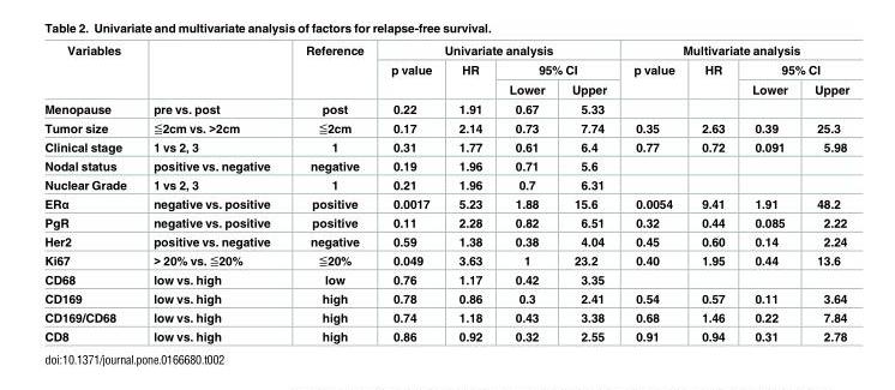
<table><thead><tr><td rowspan="3">Variables</td><td rowspan="3"></td><td rowspan="3">Reference</td><td colspan="4">Univariate analysis</td><td colspan="4">Multivariate analysis</td></tr><tr><td rowspan="2">p value</td><td rowspan="2">HR</td><td colspan="2">95% CI</td><td rowspan="2">p value</td><td rowspan="2">HR</td><td colspan="2">95% CI</td></tr><tr><td>Lower</td><td>Upper</td><td>Lower</td><td>Upper</td></tr></thead><tbody><tr><td>Menopause</td><td>pre vs. post</td><td>post</td><td>0.22</td><td>1.91</td><td>0.67</td><td>5.33</td><td></td><td></td><td></td><td></td></tr><tr><td>Tumor size</td><td>≦2cm vs. &gt;2cm</td><td>≦2cm</td><td>0.17</td><td>2.14</td><td>0.73</td><td>7.74</td><td>0.35</td><td>2.63</td><td>0.39</td><td>25.3</td></tr><tr><td>Clinical stage</td><td>1 vs 2, 3</td><td>1</td><td>0.31</td><td>1.77</td><td>0.61</td><td>6.4</td><td>0.77</td><td>0.72</td><td>0.091</td><td>5.98</td></tr><tr><td>Nodal status</td><td>positive vs. negative</td><td>negative</td><td>0.19</td><td>1.96</td><td>0.71</td><td>5.6</td><td></td><td></td><td></td><td></td></tr><tr><td>Nuclear Grade</td><td>1 vs 2, 3</td><td>1</td><td>0.21</td><td>1.96</td><td>0.7</td><td>6.31</td><td></td><td></td><td></td><td></td></tr><tr><td>ERα</td><td>negative vs. positive</td><td>positive</td><td>0.0017</td><td>5.23</td><td>1.88</td><td>15.6</td><td>0.0054</td><td>9.41</td><td>1.91</td><td>48.2</td></tr><tr><td>PgR</td><td>negative vs. positive</td><td>positive</td><td>0.11</td><td>2.28</td><td>0.82</td><td>6.51</td><td>0.32</td><td>0.44</td><td>0.085</td><td>2.22</td></tr><tr><td>Her2</td><td>positive vs. negative</td><td>negative</td><td>0.59</td><td>1.38</td><td>0.38</td><td>4.04</td><td>0.45</td><td>0.60</td><td>0.14</td><td>2.24</td></tr><tr><td>Ki67</td><td>&gt; 20% vs. ≦20%</td><td>≦20%</td><td>0.049</td><td>3.63</td><td>1</td><td>23.2</td><td>0.40</td><td>1.95</td><td>0.44</td><td>13.6</td></tr><tr><td>CD68</td><td>low vs. high</td><td>low</td><td>0.76</td><td>1.17</td><td>0.42</td><td>3.35</td><td></td><td></td><td></td><td></td></tr><tr><td>CD169</td><td>low vs. high</td><td>high</td><td>0.78</td><td>0.86</td><td>0.3</td><td>2.41</td><td>0.54</td><td>0.57</td><td>0.11</td><td>3.64</td></tr><tr><td>CD169/CD68</td><td>low vs. high</td><td>high</td><td>0.74</td><td>1.18</td><td>0.43</td><td>3.38</td><td>0.68</td><td>1.46</td><td>0.22</td><td>7.84</td></tr><tr><td>CD8</td><td>low vs. high</td><td>high</td><td>0.86</td><td>0.92</td><td>0.32</td><td>2.55</td><td>0.91</td><td>0.94</td><td>0.31</td><td>2.78</td></tr></tbody></table>